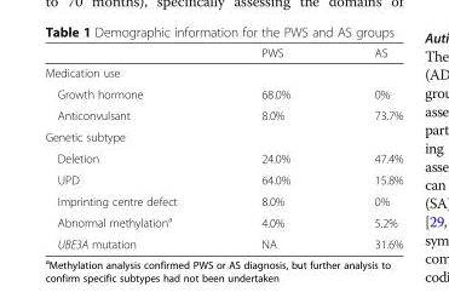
<table><thead><tr><td></td><td>PWS</td><td>AS</td></tr></thead><tbody><tr><td colspan="3">Medication use</td></tr><tr><td>Growth hormone</td><td>68.0%</td><td>0%</td></tr><tr><td>Anticonvulsant</td><td>8.0%</td><td>73.7%</td></tr><tr><td colspan="3">Genetic subtype</td></tr><tr><td>Deletion</td><td>24.0%</td><td>47.4%</td></tr><tr><td>UPD</td><td>64.0%</td><td>15.8%</td></tr><tr><td>Imprinting centre defect</td><td>8.0%</td><td>0%</td></tr><tr><td>Abnormal methylation<sup>a</sup></td><td>4.0%</td><td>5.2%</td></tr><tr><td>UBE3A mutation</td><td>NA</td><td>31.6%</td></tr></tbody></table>